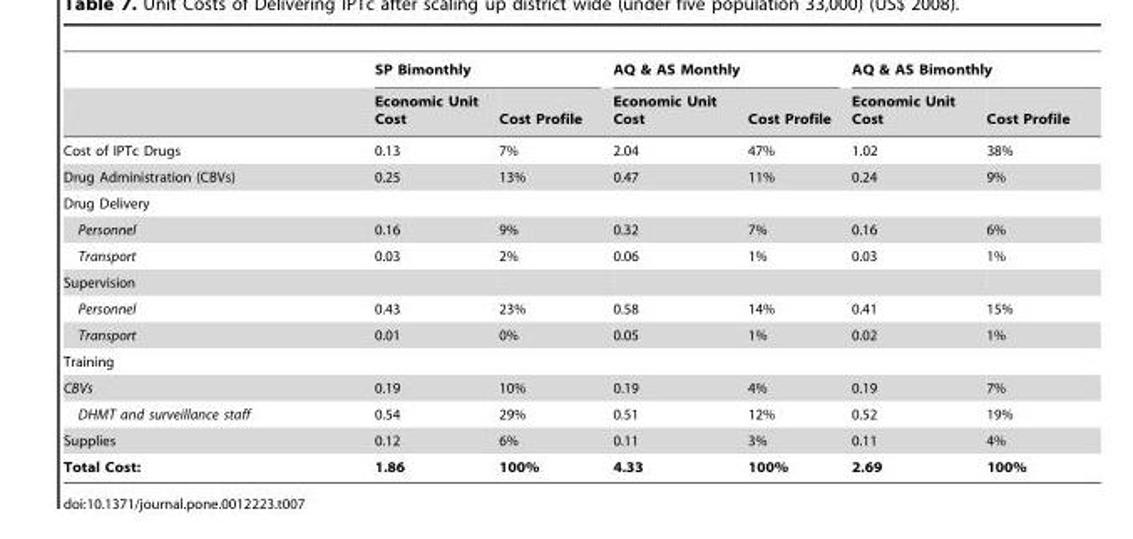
<table><thead><tr><td rowspan="2"></td><td colspan="2">SP Bimonthly</td><td colspan="2">AQ &amp; AS Monthly</td><td colspan="2">AQ &amp; AS Bimonthly</td></tr><tr><td>Economic Unit Cost</td><td>Cost Profile</td><td>Economic Unit Cost</td><td>Cost Profile</td><td>Economic Unit Cost</td><td>Cost Profile</td></tr></thead><tbody><tr><td>Cost of IPTc Drugs</td><td>0.13</td><td>7%</td><td>2.04</td><td>47%</td><td>1.02</td><td>38%</td></tr><tr><td>Drug Administration (CBVs)</td><td>0.25</td><td>13%</td><td>0.47</td><td>11%</td><td>0.24</td><td>9%</td></tr><tr><td colspan="7">Drug Delivery</td></tr><tr><td>Personnel</td><td>0.16</td><td>9%</td><td>0.32</td><td>7%</td><td>0.16</td><td>6%</td></tr><tr><td>Transport</td><td>0.03</td><td>2%</td><td>0.06</td><td>1%</td><td>0.03</td><td>1%</td></tr><tr><td colspan="7">Supervision</td></tr><tr><td>Personnel</td><td>0.43</td><td>23%</td><td>0.58</td><td>14%</td><td>0.41</td><td>15%</td></tr><tr><td>Transport</td><td>0.01</td><td>0%</td><td>0.05</td><td>1%</td><td>0.02</td><td>1%</td></tr><tr><td colspan="7">Training</td></tr><tr><td>CBVs</td><td>0.19</td><td>10%</td><td>0.19</td><td>4%</td><td>0.19</td><td>7%</td></tr><tr><td>DHMT and surveillance staff</td><td>0.54</td><td>29%</td><td>0.51</td><td>12%</td><td>0.52</td><td>19%</td></tr><tr><td>Supplies</td><td>0.12</td><td>6%</td><td>0.11</td><td>3%</td><td>0.11</td><td>4%</td></tr><tr><td>Total Cost:</td><td>1.86</td><td>100%</td><td>4.33</td><td>100%</td><td>2.69</td><td>100%</td></tr></tbody></table>